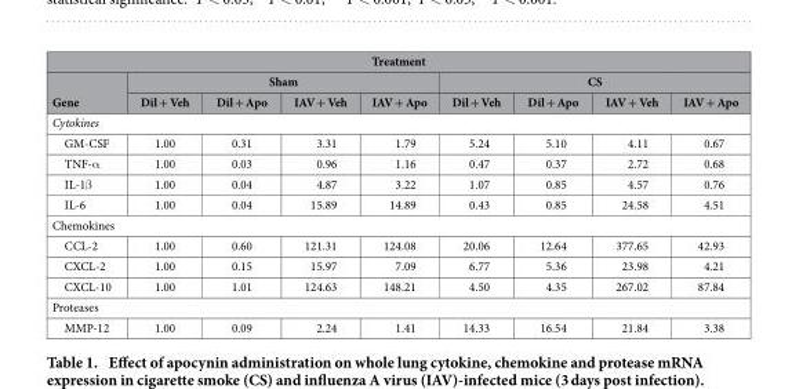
<table><thead><tr><td colspan="9">Treatment</td></tr><tr><td rowspan="2">Gene</td><td colspan="4">Sham</td><td colspan="4">CS</td></tr><tr><td>Dil + Veh</td><td>Dil + Apo</td><td>IAV + Veh</td><td>IAV + Apo</td><td>Dil + Veh</td><td>Dil + Apo</td><td>IAV + Veh</td><td>IAV + Apo</td></tr></thead><tbody><tr><td colspan="9">Cytokines</td></tr><tr><td>GM-CSF</td><td>1.00</td><td>0.31</td><td>3.31</td><td>1.79</td><td>5.24</td><td>5.10</td><td>4.11</td><td>0.67</td></tr><tr><td>TNF-α</td><td>1.00</td><td>0.03</td><td>0.96</td><td>1.16</td><td>0.47</td><td>0.37</td><td>2.72</td><td>0.68</td></tr><tr><td>IL-1β</td><td>1.00</td><td>0.04</td><td>4.87</td><td>3.22</td><td>1.07</td><td>0.85</td><td>4.57</td><td>0.76</td></tr><tr><td>IL-6</td><td>1.00</td><td>0.04</td><td>15.89</td><td>14.89</td><td>0.43</td><td>0.85</td><td>24.58</td><td>4.51</td></tr><tr><td colspan="9">Chemokines</td></tr><tr><td>CCL-2</td><td>1.00</td><td>0.60</td><td>121.31</td><td>124.08</td><td>20.06</td><td>12.64</td><td>377.65</td><td>42.93</td></tr><tr><td>CXCL-2</td><td>1.00</td><td>0.15</td><td>15.97</td><td>7.09</td><td>6.77</td><td>5.36</td><td>23.98</td><td>4.21</td></tr><tr><td>CXCL-10</td><td>1.00</td><td>1.01</td><td>124.63</td><td>148.21</td><td>4.50</td><td>4.35</td><td>267.02</td><td>87.84</td></tr><tr><td colspan="9">Proteases</td></tr><tr><td>MMP-12</td><td>1.00</td><td>0.09</td><td>2.24</td><td>1.41</td><td>14.33</td><td>16.54</td><td>21.84</td><td>3.38</td></tr></tbody></table>